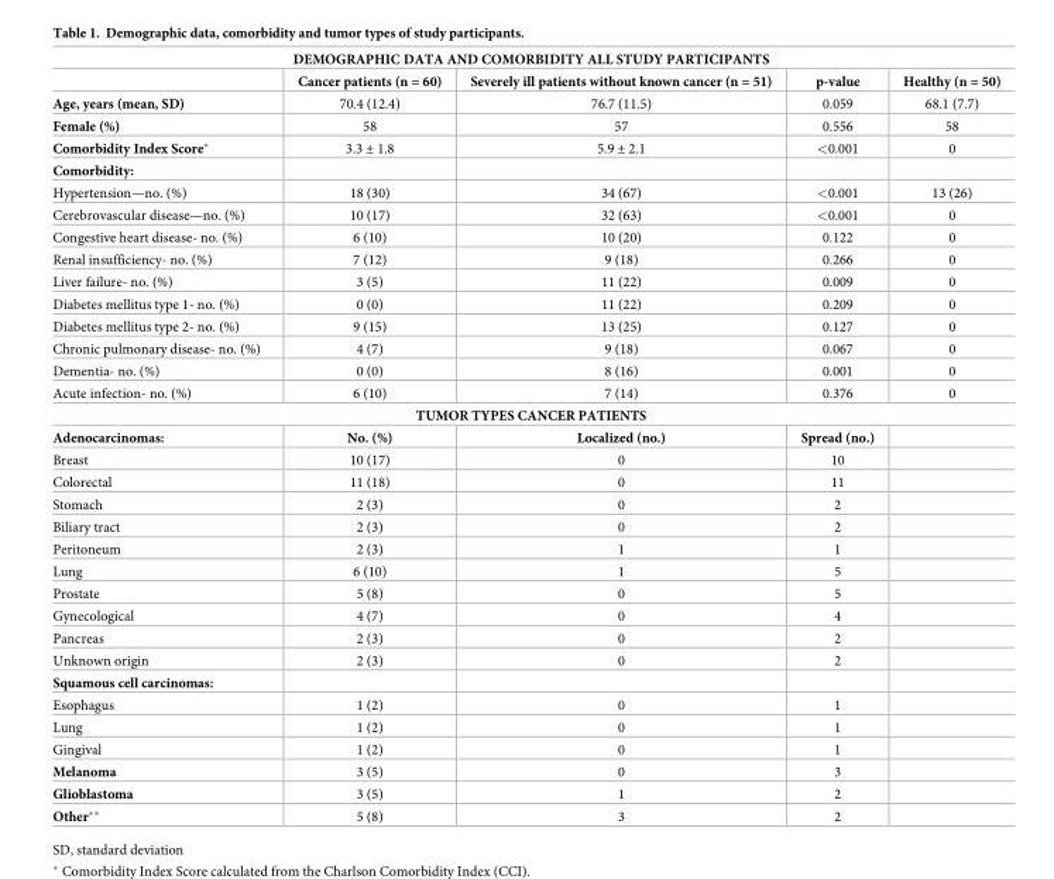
<table><thead><tr><td colspan="5">DEMOGRAPHIC DATA AND COMORBIDITY ALL STUDY PARTICIPANTS</td></tr><tr><td></td><td>Cancer patients (n = 60)</td><td>Severely ill patients without known cancer (n = 51)</td><td>p-value</td><td>Healthy (n = 50)</td></tr></thead><tbody><tr><td>Age, years (mean, SD)</td><td>70.4 (12.4)</td><td>76.7 (11.5)</td><td>0.059</td><td>68.1 (7.7)</td></tr><tr><td>Female (%)</td><td>58</td><td>57</td><td>0.556</td><td>58</td></tr><tr><td>Comorbidity Index Score*</td><td>3.3 ± 1.8</td><td>5.9 ± 2.1</td><td>&lt;0.001</td><td>0</td></tr><tr><td colspan="5">Comorbidity:</td></tr><tr><td>Hypertension—no. (%)</td><td>18 (30)</td><td>34 (67)</td><td>&lt;0.001</td><td>13 (26)</td></tr><tr><td>Cerebrovascular disease—no. (%)</td><td>10 (17)</td><td>32 (63)</td><td>&lt;0.001</td><td>0</td></tr><tr><td>Congestive heart disease- no. (%)</td><td>6 (10)</td><td>10 (20)</td><td>0.122</td><td>0</td></tr><tr><td>Renal insufficiency- no. (%)</td><td>7 (12)</td><td>9 (18)</td><td>0.266</td><td>0</td></tr><tr><td>Liver failure- no. (%)</td><td>3 (5)</td><td>11 (22)</td><td>0.009</td><td>0</td></tr><tr><td>Diabetes mellitus type 1- no. (%)</td><td>0 (0)</td><td>11 (22)</td><td>0.209</td><td>0</td></tr><tr><td>Diabetes mellitus type 2- no. (%)</td><td>9 (15)</td><td>13 (25)</td><td>0.127</td><td>0</td></tr><tr><td>Chronic pulmonary disease- no. (%)</td><td>4 (7)</td><td>9 (18)</td><td>0.067</td><td>0</td></tr><tr><td>Dementia- no. (%)</td><td>0 (0)</td><td>8 (16)</td><td>0.001</td><td>0</td></tr><tr><td>Acute infection- no. (%)</td><td>6 (10)</td><td>7 (14)</td><td>0.376</td><td>0</td></tr><tr><td colspan="5">TUMOR TYPES CANCER PATIENTS</td></tr><tr><td>Adenocarcinomas:</td><td>No. (%)</td><td>Localized (no.)</td><td>Spread (no.)</td><td></td></tr><tr><td>Breast</td><td>10 (17)</td><td>0</td><td>10</td><td></td></tr><tr><td>Colorectal</td><td>11 (18)</td><td>0</td><td>11</td><td></td></tr><tr><td>Stomach</td><td>2 (3)</td><td>0</td><td>2</td><td></td></tr><tr><td>Biliary tract</td><td>2 (3)</td><td>0</td><td>2</td><td></td></tr><tr><td>Peritoneum</td><td>2 (3)</td><td>1</td><td>1</td><td></td></tr><tr><td>Lung</td><td>6 (10)</td><td>1</td><td>5</td><td></td></tr><tr><td>Prostate</td><td>5 (8)</td><td>0</td><td>5</td><td></td></tr><tr><td>Gynecological</td><td>4 (7)</td><td>0</td><td>4</td><td></td></tr><tr><td>Pancreas</td><td>2 (3)</td><td>0</td><td>2</td><td></td></tr><tr><td>Unknown origin</td><td>2 (3)</td><td>0</td><td>2</td><td></td></tr><tr><td colspan="5">Squamous cell carcinomas:</td></tr><tr><td>Esophagus</td><td>1 (2)</td><td>0</td><td>1</td><td></td></tr><tr><td>Lung</td><td>1 (2)</td><td>0</td><td>1</td><td></td></tr><tr><td>Gingival</td><td>1 (2)</td><td>0</td><td>1</td><td></td></tr><tr><td>Melanoma</td><td>3 (5)</td><td>0</td><td>3</td><td></td></tr><tr><td>Glioblastoma</td><td>3 (5)</td><td>1</td><td>2</td><td></td></tr><tr><td>Other**</td><td>5 (8)</td><td>3</td><td>2</td><td></td></tr></tbody></table>